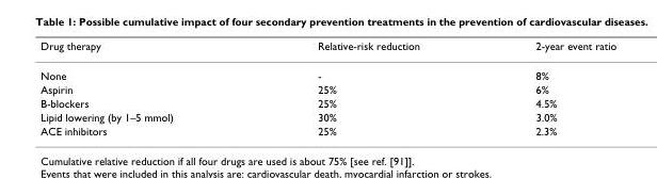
<table><thead><tr><td>Drug therapy</td><td>Relative-risk reduction</td><td>2-year event ratio</td></tr></thead><tbody><tr><td>None</td><td>-</td><td>8%</td></tr><tr><td>Aspirin</td><td>25%</td><td>6%</td></tr><tr><td>B-blockers</td><td>25%</td><td>4.5%</td></tr><tr><td>Lipid lowering (by 1–5 mmol)</td><td>30%</td><td>3.0%</td></tr><tr><td>ACE inhibitors</td><td>25%</td><td>2.3%</td></tr></tbody></table>